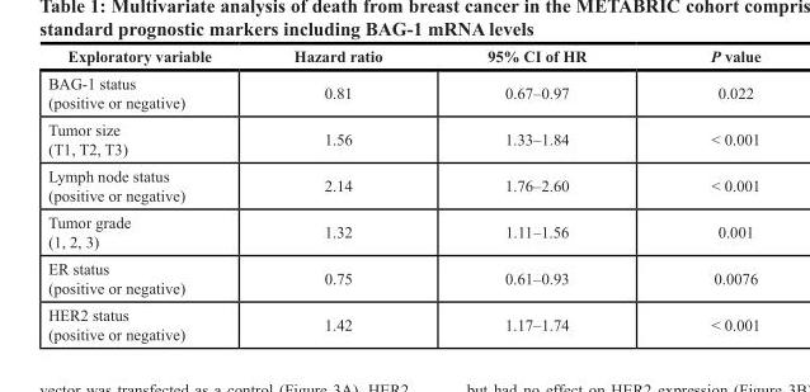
<table><thead><tr><td>Exploratory variable</td><td>Hazard ratio</td><td>95% CI of HR</td><td>P value</td></tr></thead><tbody><tr><td>BAG-1 status (positive or negative)</td><td>0.81</td><td>0.67–0.97</td><td>0.022</td></tr><tr><td>Tumor size (T1, T2, T3)</td><td>1.56</td><td>1.33–1.84</td><td>&lt; 0.001</td></tr><tr><td>Lymph node status (positive or negative)</td><td>2.14</td><td>1.76–2.60</td><td>&lt; 0.001</td></tr><tr><td>Tumor grade (1, 2, 3)</td><td>1.32</td><td>1.11–1.56</td><td>0.001</td></tr><tr><td>ER status (positive or negative)</td><td>0.75</td><td>0.61–0.93</td><td>0.0076</td></tr><tr><td>HER2 status (positive or negative)</td><td>1.42</td><td>1.17–1.74</td><td>&lt; 0.001</td></tr></tbody></table>